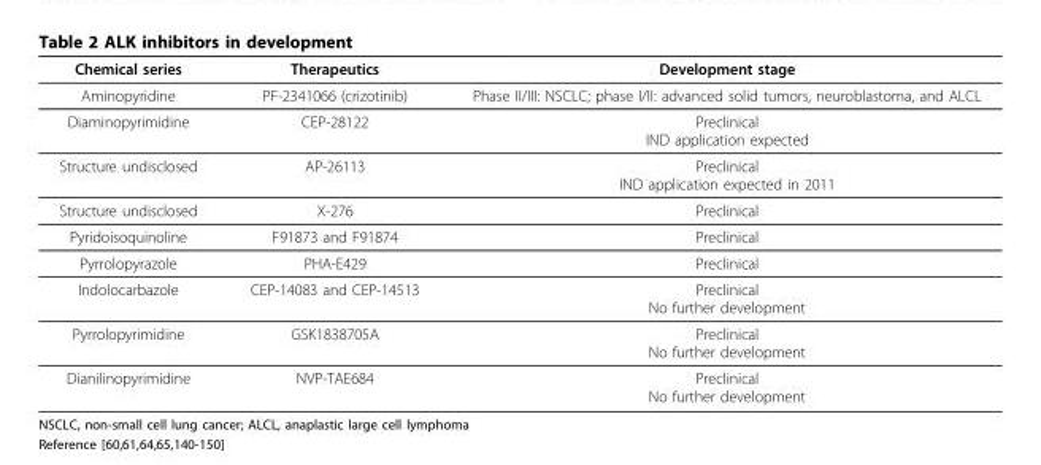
<table><thead><tr><td>Chemical series</td><td>Therapeutics</td><td>Development stage</td></tr></thead><tbody><tr><td>Aminopyridine</td><td>PF-2341066 (crizotinib)</td><td>Phase II/III: NSCLC; phase I/II: advanced solid tumors, neuroblastoma, and ALCL</td></tr><tr><td>Diaminopyrimidine</td><td>CEP-28122</td><td>Preclinical IND application expected</td></tr><tr><td>Structure undisclosed</td><td>AP-26113</td><td>Preclinical IND application expected in 2011</td></tr><tr><td>Structure undisclosed</td><td>X-276</td><td>Preclinical</td></tr><tr><td>Pyridoisoquinoline</td><td>F91873 and F91874</td><td>Preclinical</td></tr><tr><td>Pyrrolopyrazole</td><td>PHA-E429</td><td>Preclinical</td></tr><tr><td>Indolocarbazole</td><td>CEP-14083 and CEP-14513</td><td>Preclinical No further development</td></tr><tr><td>Pyrrolopyrimidine</td><td>GSK1838705A</td><td>Preclinical No further development</td></tr><tr><td>Dianilinopyrimidine</td><td>NVP-TAE684</td><td>Preclinical No further development</td></tr></tbody></table>